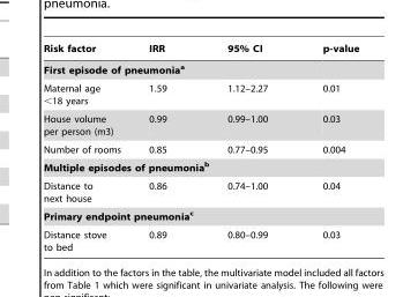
<table><thead><tr><td>Risk factor</td><td>IRR</td><td>95% CI</td><td>p-value</td></tr></thead><tbody><tr><td colspan="4">First episode of pneumoniaa</td></tr><tr><td>Maternal age &lt;18 years</td><td>1.59</td><td>1.12–2.27</td><td>0.01</td></tr><tr><td>House volume per person (m3)</td><td>0.99</td><td>0.99–1.00</td><td>0.03</td></tr><tr><td>Number of rooms</td><td>0.85</td><td>0.77–0.95</td><td>0.004</td></tr><tr><td colspan="4">Multiple episodes of pneumoniab</td></tr><tr><td>Distance to next house</td><td>0.86</td><td>0.74–1.00</td><td>0.04</td></tr><tr><td colspan="4">Primary endpoint pneumoniac</td></tr><tr><td>Distance stove to bed</td><td>0.89</td><td>0.80–0.99</td><td>0.03</td></tr></tbody></table>